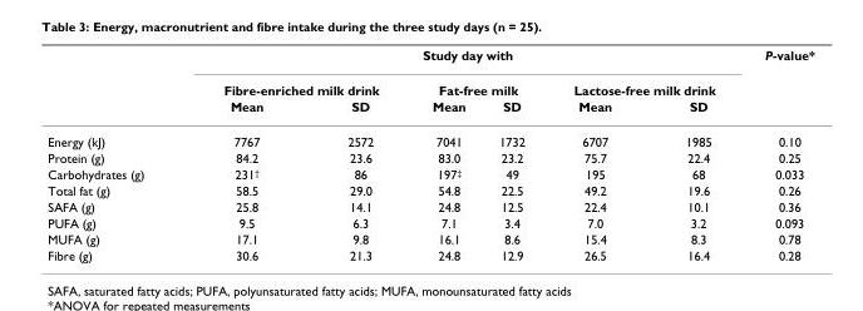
<table><thead><tr><td rowspan="3"></td><td colspan="6">Study day with</td><td rowspan="3">P-value*</td></tr><tr><td colspan="2">Fibre-enriched milk drink</td><td colspan="2">Fat-free milk</td><td colspan="2">Lactose-free milk drink</td></tr><tr><td>Mean</td><td>SD</td><td>Mean</td><td>SD</td><td>Mean</td><td>SD</td></tr></thead><tbody><tr><td>Energy (kJ)</td><td>7767</td><td>2572</td><td>7041</td><td>1732</td><td>6707</td><td>1985</td><td>0.10</td></tr><tr><td>Protein (g)</td><td>84.2</td><td>23.6</td><td>83.0</td><td>23.2</td><td>75.7</td><td>22.4</td><td>0.25</td></tr><tr><td>Carbohydrates (g)</td><td>231<sup>†</sup></td><td>86</td><td>197<sup>‡</sup></td><td>49</td><td>195</td><td>68</td><td>0.033</td></tr><tr><td>Total fat (g)</td><td>58.5</td><td>29.0</td><td>54.8</td><td>22.5</td><td>49.2</td><td>19.6</td><td>0.26</td></tr><tr><td>SAFA (g)</td><td>25.8</td><td>14.1</td><td>24.8</td><td>12.5</td><td>22.4</td><td>10.1</td><td>0.36</td></tr><tr><td>PUFA (g)</td><td>9.5</td><td>6.3</td><td>7.1</td><td>3.4</td><td>7.0</td><td>3.2</td><td>0.093</td></tr><tr><td>MUFA (g)</td><td>17.1</td><td>9.8</td><td>16.1</td><td>8.6</td><td>15.4</td><td>8.3</td><td>0.78</td></tr><tr><td>Fibre (g)</td><td>30.6</td><td>21.3</td><td>24.8</td><td>12.9</td><td>26.5</td><td>16.4</td><td>0.28</td></tr></tbody></table>